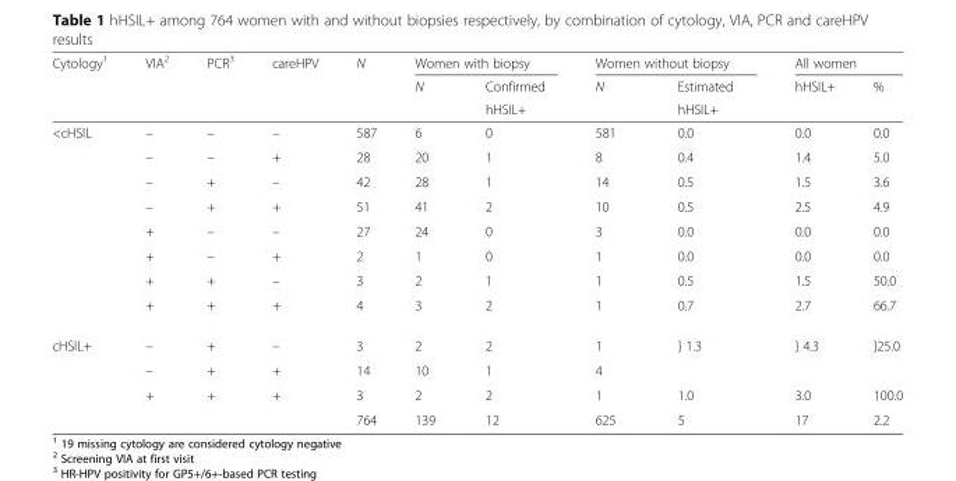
<table><thead><tr><td rowspan="3">Cytology<sup>1</sup></td><td rowspan="3">VIA<sup>2</sup></td><td rowspan="3">PCR<sup>3</sup></td><td rowspan="3">careHPV</td><td rowspan="3">N</td><td colspan="2">Women with biopsy</td><td colspan="2">Women without biopsy</td><td colspan="2">All women</td></tr><tr><td rowspan="2">N</td><td rowspan="2">Confirmed hHSIL+</td><td rowspan="2">N</td><td rowspan="2">Estimated hHSIL+</td><td rowspan="2">hHSIL+</td><td rowspan="2">%</td></tr><tr></tr></thead><tbody><tr><td rowspan="8">&lt;cHSIL</td><td>–</td><td>–</td><td>–</td><td>587</td><td>6</td><td>0</td><td>581</td><td>0.0</td><td>0.0</td><td>0.0</td></tr><tr><td>–</td><td>–</td><td>+</td><td>28</td><td>20</td><td>1</td><td>8</td><td>0.4</td><td>1.4</td><td>5.0</td></tr><tr><td>–</td><td>+</td><td>–</td><td>42</td><td>28</td><td>1</td><td>14</td><td>0.5</td><td>1.5</td><td>3.6</td></tr><tr><td>–</td><td>+</td><td>+</td><td>51</td><td>41</td><td>2</td><td>10</td><td>0.5</td><td>2.5</td><td>4.9</td></tr><tr><td>+</td><td>–</td><td>–</td><td>27</td><td>24</td><td>0</td><td>3</td><td>0.0</td><td>0.0</td><td>0.0</td></tr><tr><td>+</td><td>–</td><td>+</td><td>2</td><td>1</td><td>0</td><td>1</td><td>0.0</td><td>0.0</td><td>0.0</td></tr><tr><td>+</td><td>+</td><td>–</td><td>3</td><td>2</td><td>1</td><td>1</td><td>0.5</td><td>1.5</td><td>50.0</td></tr><tr><td>+</td><td>+</td><td>+</td><td>4</td><td>3</td><td>2</td><td>1</td><td>0.7</td><td>2.7</td><td>66.7</td></tr><tr><td rowspan="4">cHSIL+</td><td>–</td><td>+</td><td>–</td><td>3</td><td>2</td><td>2</td><td>1</td><td rowspan="2">} 1.3</td><td rowspan="2">} 4.3</td><td rowspan="2">}25.0</td></tr><tr><td>–</td><td>+</td><td>+</td><td>14</td><td>10</td><td>1</td><td>4</td></tr><tr><td>+</td><td>+</td><td>+</td><td>3</td><td>2</td><td>2</td><td>1</td><td>1.0</td><td>3.0</td><td>100.0</td></tr><tr><td colspan="3"></td><td>764</td><td>139</td><td>12</td><td>625</td><td>5</td><td>17</td><td>2.2</td></tr></tbody></table>